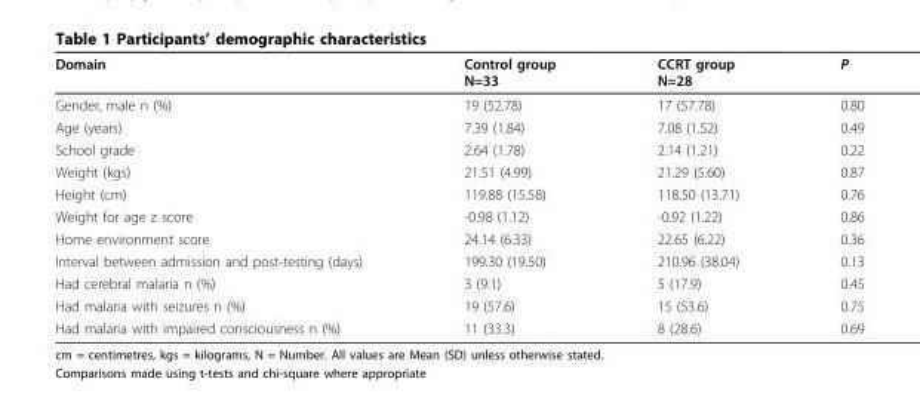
<table><thead><tr><td>Domain</td><td>Control group N=33</td><td>CCRT group N=28</td><td>P</td></tr></thead><tbody><tr><td>Gender, male n (%)</td><td>19 (52.78)</td><td>17 (57.78)</td><td>0.80</td></tr><tr><td>Age (years)</td><td>7.39 (1.84)</td><td>7.08 (1.52)</td><td>0.49</td></tr><tr><td>School grade</td><td>2.64 (1.78)</td><td>2.14 (1.21)</td><td>0.22</td></tr><tr><td>Weight (kgs)</td><td>21.51 (4.99)</td><td>21.29 (5.60)</td><td>0.87</td></tr><tr><td>Height (cm)</td><td>119.88 (15.58)</td><td>118.50 (13.71)</td><td>0.76</td></tr><tr><td>Weight for age z score</td><td>-0.98 (1.12)</td><td>-0.92 (1.22)</td><td>0.86</td></tr><tr><td>Home environment score</td><td>24.14 (6.33)</td><td>22.65 (6.22)</td><td>0.36</td></tr><tr><td>Interval between admission and post-testing (days)</td><td>199.30 (19.50)</td><td>210.96 (38.04)</td><td>0.13</td></tr><tr><td>Had cerebral malaria n (%)</td><td>3 (9.1)</td><td>5 (17.9)</td><td>0.45</td></tr><tr><td>Had malaria with seizures n (%)</td><td>19 (57.6)</td><td>15 (53.6)</td><td>0.75</td></tr><tr><td>Had malaria with impaired consciousness n (%)</td><td>11 (33.3)</td><td>8 (28.6)</td><td>0.69</td></tr></tbody></table>